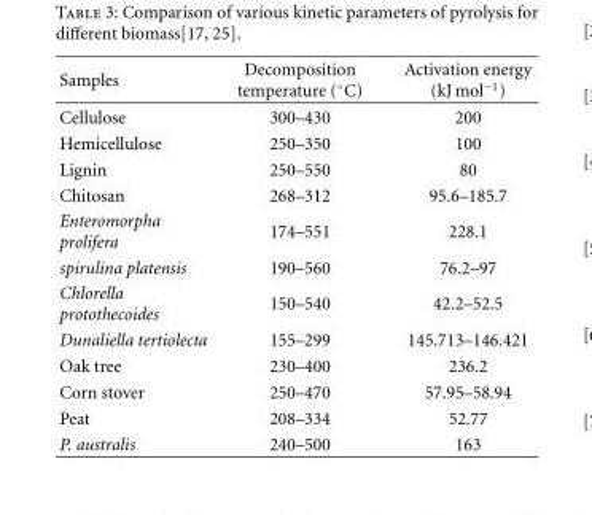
<table><thead><tr><td>Samples</td><td>Decomposition temperature (◦C)</td><td>Activation energy (kJ mol<sup>−1</sup>)</td></tr></thead><tbody><tr><td>Cellulose</td><td>300–430</td><td>200</td></tr><tr><td>Hemicellulose</td><td>250–350</td><td>100</td></tr><tr><td>Lignin</td><td>250–550</td><td>80</td></tr><tr><td>Chitosan</td><td>268–312</td><td>95.6–185.7</td></tr><tr><td>Enteromorpha prolifera</td><td>174–551</td><td>228.1</td></tr><tr><td>spirulina platensis</td><td>190–560</td><td>76.2–97</td></tr><tr><td>Chlorella protothecoides</td><td>150–540</td><td>42.2–52.5</td></tr><tr><td>Dunaliella tertiolecta</td><td>155–299</td><td>145.713–146.421</td></tr><tr><td>Oak tree</td><td>230–400</td><td>236.2</td></tr><tr><td>Corn stover</td><td>250–470</td><td>57.95–58.94</td></tr><tr><td>Peat</td><td>208–334</td><td>52.77</td></tr><tr><td>P. australis</td><td>240–500</td><td>163</td></tr></tbody></table>